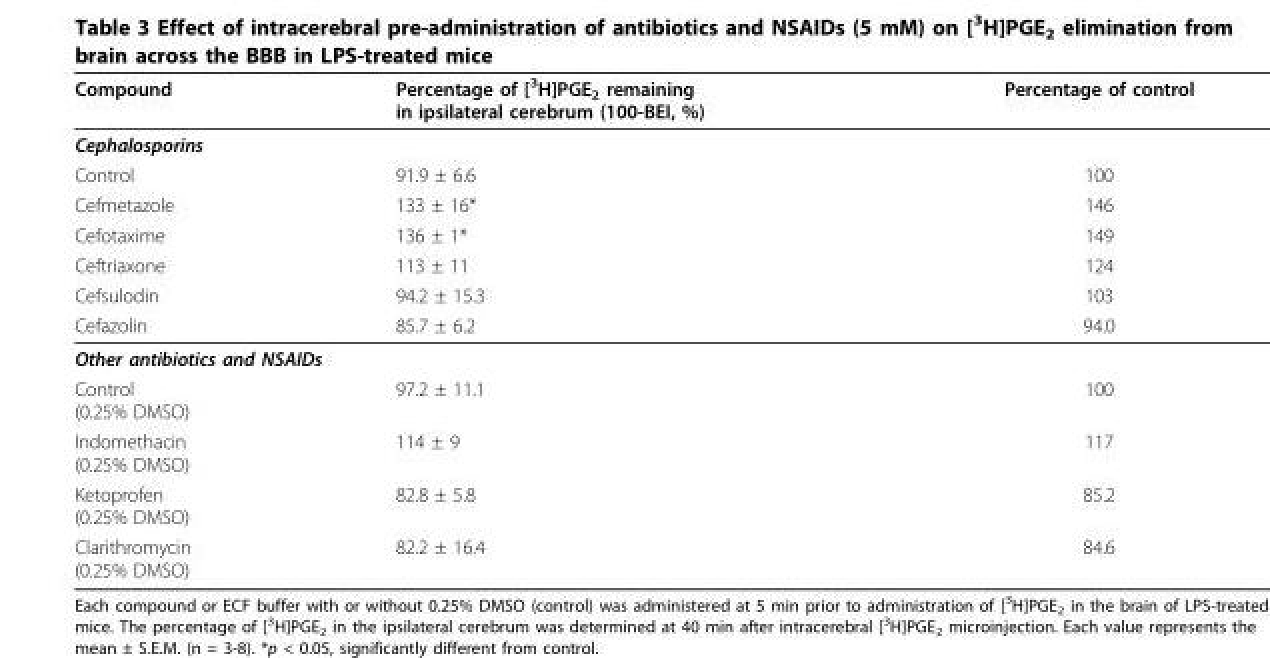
<table><thead><tr><td>Compound</td><td>Percentage of [<sup>3</sup>H]PGE<sub>2</sub> remaining in ipsilateral cerebrum (100-BEI, %)</td><td>Percentage of control</td></tr></thead><tbody><tr><td colspan="3">Cephalosporins</td></tr><tr><td>Control</td><td>91.9 ± 6.6</td><td>100</td></tr><tr><td>Cefmetazole</td><td>133 ± 16*</td><td>146</td></tr><tr><td>Cefotaxime</td><td>136 ± 1*</td><td>149</td></tr><tr><td>Ceftriaxone</td><td>113 ± 11</td><td>124</td></tr><tr><td>Cefsulodin</td><td>94.2 ± 15.3</td><td>103</td></tr><tr><td>Cefazolin</td><td>85.7 ± 6.2</td><td>94.0</td></tr><tr><td colspan="3">Other antibiotics and NSAIDs</td></tr><tr><td>Control (0.25% DMSO)</td><td>97.2 ± 11.1</td><td>100</td></tr><tr><td>Indomethacin (0.25% DMSO)</td><td>114 ± 9</td><td>117</td></tr><tr><td>Ketoprofen (0.25% DMSO)</td><td>82.8 ± 5.8</td><td>85.2</td></tr><tr><td>Clarithromycin (0.25% DMSO)</td><td>82.2 ± 16.4</td><td>84.6</td></tr></tbody></table>